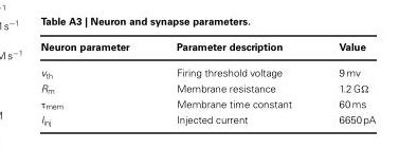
<table><thead><tr><td>Neuron parameter</td><td>Parameter description</td><td>Value</td></tr></thead><tbody><tr><td>v<sub>th</sub></td><td>Firing threshold voltage</td><td>9 mv</td></tr><tr><td>R<sub>m</sub></td><td>Membrane resistance</td><td>1.2 GΩ</td></tr><tr><td>τ<sub>mem</sub></td><td>Membrane time constant</td><td>60 ms</td></tr><tr><td>I<sub>inj</sub></td><td>Injected current</td><td>6650pA</td></tr></tbody></table>